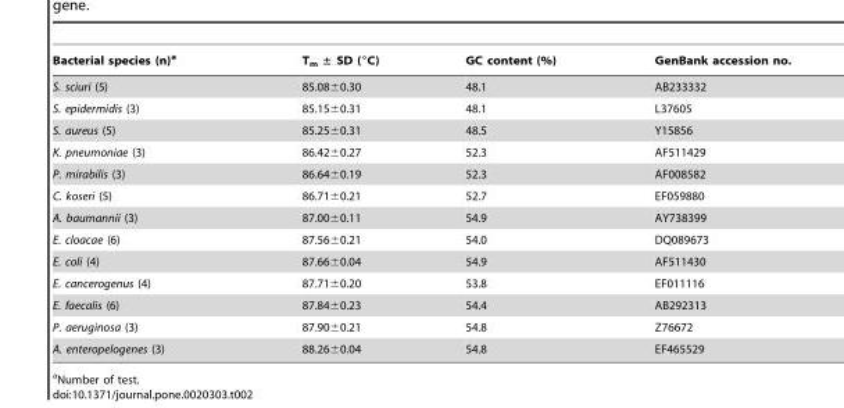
<table><thead><tr><td>Bacterial species (n)<sup>a</sup></td><td>T<sub>m</sub> ± SD (°C)</td><td>GC content (%)</td><td>GenBank accession no.</td></tr></thead><tbody><tr><td>S. sciuri (5)</td><td>85.08±0.30</td><td>48.1</td><td>AB233332</td></tr><tr><td>S. epidermidis (3)</td><td>85.15±0.31</td><td>48.1</td><td>L37605</td></tr><tr><td>S. aureus (5)</td><td>85.25±0.31</td><td>48.5</td><td>Y15856</td></tr><tr><td>K. pneumoniae (3)</td><td>86.42±0.27</td><td>52.3</td><td>AF511429</td></tr><tr><td>P. mirabilis (3)</td><td>86.64±0.19</td><td>52.3</td><td>AF008582</td></tr><tr><td>C. koseri (5)</td><td>86.71±0.21</td><td>52.7</td><td>EF059880</td></tr><tr><td>A. baumannii (3)</td><td>87.00±0.11</td><td>54.9</td><td>AY738399</td></tr><tr><td>E. cloacae (6)</td><td>87.56±0.21</td><td>54.0</td><td>DQ089673</td></tr><tr><td>E. coli (4)</td><td>87.66±0.04</td><td>54.9</td><td>AF511430</td></tr><tr><td>E. cancerogenus (4)</td><td>87.71±0.20</td><td>53.8</td><td>EF011116</td></tr><tr><td>E. faecalis (6)</td><td>87.84±0.23</td><td>54.4</td><td>AB292313</td></tr><tr><td>P. aeruginosa (3)</td><td>87.90±0.21</td><td>54.8</td><td>Z76672</td></tr><tr><td>A. enteropelogenes (3)</td><td>88.26±0.04</td><td>54.8</td><td>EF465529</td></tr></tbody></table>